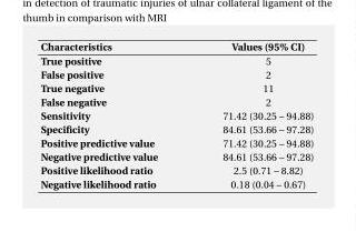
<table><thead><tr><td>Characteristics</td><td>Values (95% CI)</td></tr></thead><tbody><tr><td>True positive</td><td>5</td></tr><tr><td>False positive</td><td>2</td></tr><tr><td>True negative</td><td>11</td></tr><tr><td>False negative</td><td>2</td></tr><tr><td>Sensitivity</td><td>71.42 (30.25 – 94.88)</td></tr><tr><td>Specificity</td><td>84.61 (53.66 – 97.28)</td></tr><tr><td>Positive predictive value</td><td>71.42 (30.25 – 94.88)</td></tr><tr><td>Negative predictive value</td><td>84.61 (53.66 – 97.28)</td></tr><tr><td>Positive likelihood ratio</td><td>2.5 (0.71 – 8.82)</td></tr><tr><td>Negative likelihood ratio</td><td>0.18 (0.04 – 0.67)</td></tr></tbody></table>